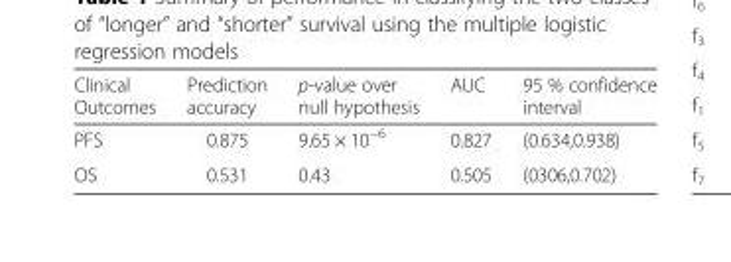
<table><thead><tr><td>Clinical Outcomes</td><td>Prediction accuracy</td><td>p-value over null hypothesis</td><td>AUC</td><td>95 % confidence interval</td></tr></thead><tbody><tr><td>PFS</td><td>0.875</td><td>9.65 × 10<sup>−6</sup></td><td>0.827</td><td>(0.634,0.938)</td></tr><tr><td>OS</td><td>0.531</td><td>0.43</td><td>0.505</td><td>(0306,0.702)</td></tr></tbody></table>